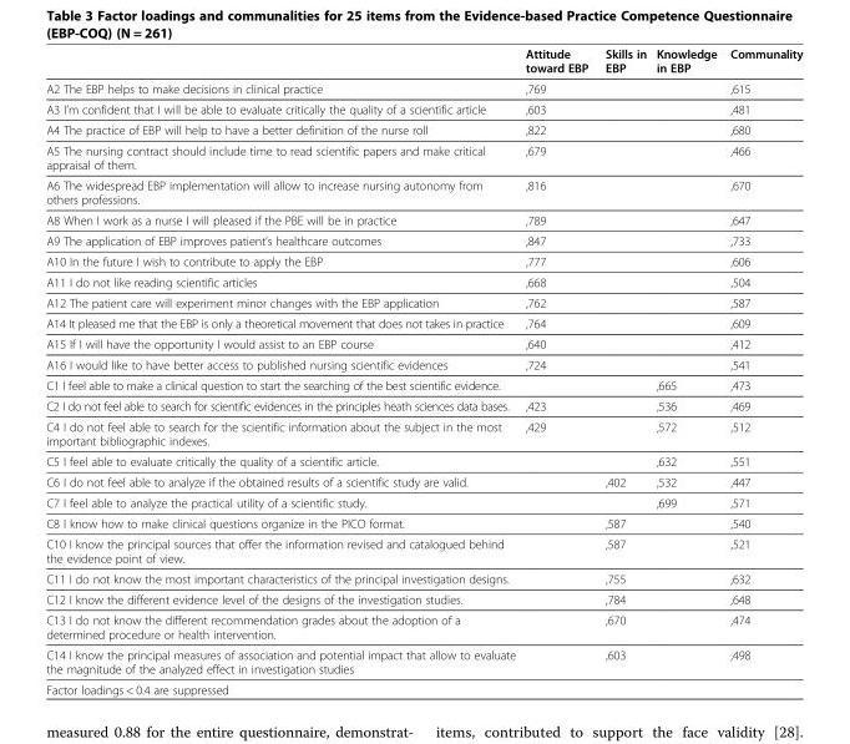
<table><thead><tr><td></td><td>Attitude toward EBP</td><td>Skills in EBP</td><td>Knowledge in EBP</td><td>Communality</td></tr></thead><tbody><tr><td>A2 The EBP helps to make decisions in clinical practice</td><td>,769</td><td></td><td></td><td>,615</td></tr><tr><td>A3 I’m confident that I will be able to evaluate critically the quality of a scientific article</td><td>,603</td><td></td><td></td><td>,481</td></tr><tr><td>A4 The practice of EBP will help to have a better definition of the nurse roll</td><td>,822</td><td></td><td></td><td>,680</td></tr><tr><td>A5 The nursing contract should include time to read scientific papers and make critical appraisal of them.</td><td>,679</td><td></td><td></td><td>,466</td></tr><tr><td>A6 The widespread EBP implementation will allow to increase nursing autonomy from others professions.</td><td>,816</td><td></td><td></td><td>,670</td></tr><tr><td>A8 When I work as a nurse I will pleased if the PBE will be in practice</td><td>,789</td><td></td><td></td><td>,647</td></tr><tr><td>A9 The application of EBP improves patient’s healthcare outcomes</td><td>,847</td><td></td><td></td><td>,733</td></tr><tr><td>A10 In the future I wish to contribute to apply the EBP</td><td>,777</td><td></td><td></td><td>,606</td></tr><tr><td>A11 I do not like reading scientific articles</td><td>,668</td><td></td><td></td><td>,504</td></tr><tr><td>A12 The patient care will experiment minor changes with the EBP application</td><td>,762</td><td></td><td></td><td>,587</td></tr><tr><td>A14 It pleased me that the EBP is only a theoretical movement that does not takes in practice</td><td>,764</td><td></td><td></td><td>,609</td></tr><tr><td>A15 If I will have the opportunity I would assist to an EBP course</td><td>,640</td><td></td><td></td><td>,412</td></tr><tr><td>A16 I would like to have better access to published nursing scientific evidences</td><td>,724</td><td></td><td></td><td>,541</td></tr><tr><td>C1 I feel able to make a clinical question to start the searching of the best scientific evidence.</td><td></td><td></td><td>,665</td><td>,473</td></tr><tr><td>C2 I do not feel able to search for scientific evidences in the principles heath sciences data bases.</td><td>,423</td><td></td><td>,536</td><td>,469</td></tr><tr><td>C4 I do not feel able to search for the scientific information about the subject in the most important bibliographic indexes.</td><td>,429</td><td></td><td>,572</td><td>,512</td></tr><tr><td>C5 I feel able to evaluate critically the quality of a scientific article.</td><td></td><td></td><td>,632</td><td>,551</td></tr><tr><td>C6 I do not feel able to analyze if the obtained results of a scientific study are valid.</td><td></td><td>,402</td><td>,532</td><td>,447</td></tr><tr><td>C7 I feel able to analyze the practical utility of a scientific study.</td><td></td><td></td><td>,699</td><td>,571</td></tr><tr><td>C8 I know how to make clinical questions organize in the PICO format.</td><td></td><td>,587</td><td></td><td>,540</td></tr><tr><td>C10 I know the principal sources that offer the information revised and catalogued behind the evidence point of view.</td><td></td><td>,587</td><td></td><td>,521</td></tr><tr><td>C11 I do not know the most important characteristics of the principal investigation designs.</td><td></td><td>,755</td><td></td><td>,632</td></tr><tr><td>C12 I know the different evidence level of the designs of the investigation studies.</td><td></td><td>,784</td><td></td><td>,648</td></tr><tr><td>C13 I do not know the different recommendation grades about the adoption of a determined procedure or health intervention.</td><td></td><td>,670</td><td></td><td>,474</td></tr><tr><td>C14 I know the principal measures of association and potential impact that allow to evaluate the magnitude of the analyzed effect in investigation studies</td><td></td><td>,603</td><td></td><td>,498</td></tr><tr><td colspan="5">Factor loadings &lt; 0.4 are suppressed</td></tr></tbody></table>